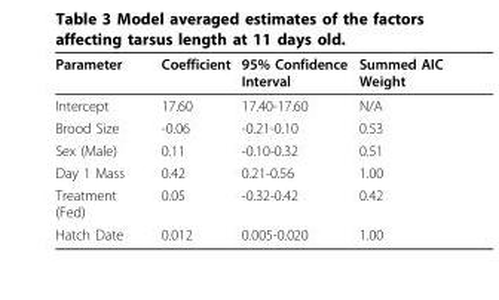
<table><thead><tr><td>Parameter</td><td>Coefficient</td><td>95% Confidence Interval</td><td>Summed AIC Weight</td></tr></thead><tbody><tr><td>Intercept</td><td>17.60</td><td>17.40-17.60</td><td>N/A</td></tr><tr><td>Brood Size</td><td>-0.06</td><td>-0.21-0.10</td><td>0.53</td></tr><tr><td>Sex (Male)</td><td>0.11</td><td>-0.10-0.32</td><td>0.51</td></tr><tr><td>Day 1 Mass</td><td>0.42</td><td>0.21-0.56</td><td>1.00</td></tr><tr><td>Treatment (Fed)</td><td>0.05</td><td>-0.32-0.42</td><td>0.42</td></tr><tr><td>Hatch Date</td><td>0.012</td><td>0.005-0.020</td><td>1.00</td></tr></tbody></table>